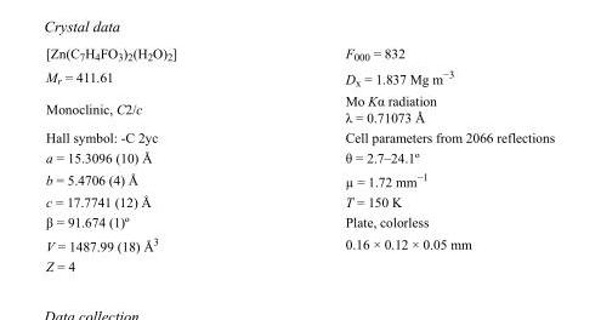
<table><tbody><tr><td>[Zn(C<sub>7</sub>H<sub>4</sub>FO<sub>3</sub>)<sub>2</sub>(H<sub>2</sub>O)<sub>2</sub>]</td><td>F000 = 832</td></tr><tr><td>M<sub>r</sub> = 411.61</td><td>D<sub>x</sub> = 1.837 Mg m<sup>−3</sup></td></tr><tr><td>Monoclinic, C2/c</td><td>Mo Kα radiation λ = 0.71073 Å</td></tr><tr><td>Hall symbol: -C 2yc</td><td>Cell parameters from 2066 reflections</td></tr><tr><td>a = 15.3096 (10) Å</td><td>θ = 2.7–24.1º</td></tr><tr><td>b = 5.4706 (4) Å</td><td>µ = 1.72 mm<sup>−1</sup></td></tr><tr><td>c = 17.7741 (12) Å</td><td>T = 150 K</td></tr><tr><td>β = 91.674 (1)º</td><td>Plate, colorless</td></tr><tr><td>V = 1487.99 (18) Å<sup>3</sup></td><td>0.16 × 0.12 × 0.05 mm</td></tr><tr><td>Z = 4</td><td></td></tr></tbody></table>